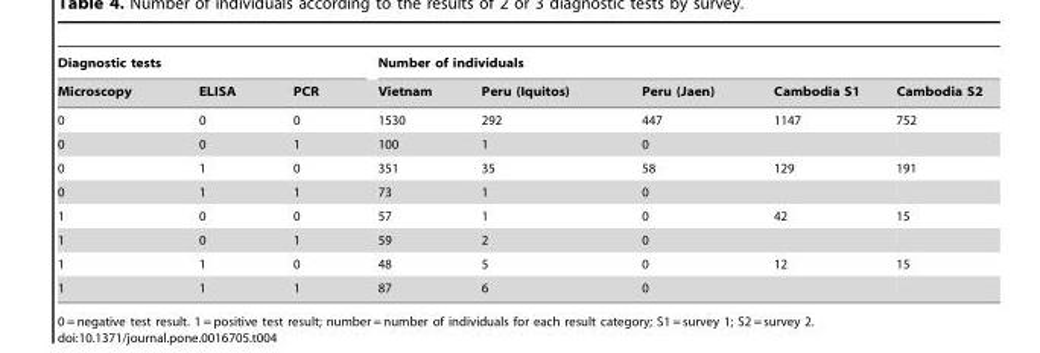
<table><thead><tr><td colspan="3">Diagnostic tests</td><td colspan="5">Number of individuals</td></tr><tr><td>Microscopy</td><td>ELISA</td><td>PCR</td><td>Vietnam</td><td>Peru (Iquitos)</td><td>Peru (Jaen)</td><td>Cambodia S1</td><td>Cambodia S2</td></tr></thead><tbody><tr><td>0</td><td>0</td><td>0</td><td>1530</td><td>292</td><td>447</td><td>1147</td><td>752</td></tr><tr><td>0</td><td>0</td><td>1</td><td>100</td><td>1</td><td>0</td><td></td><td></td></tr><tr><td>0</td><td>1</td><td>0</td><td>351</td><td>35</td><td>58</td><td>129</td><td>191</td></tr><tr><td>0</td><td>1</td><td>1</td><td>73</td><td>1</td><td>0</td><td></td><td></td></tr><tr><td>1</td><td>0</td><td>0</td><td>57</td><td>1</td><td>0</td><td>42</td><td>15</td></tr><tr><td>1</td><td>0</td><td>1</td><td>59</td><td>2</td><td>0</td><td></td><td></td></tr><tr><td>1</td><td>1</td><td>0</td><td>48</td><td>5</td><td>0</td><td>12</td><td>15</td></tr><tr><td>1</td><td>1</td><td>1</td><td>87</td><td>6</td><td>0</td><td></td><td></td></tr></tbody></table>